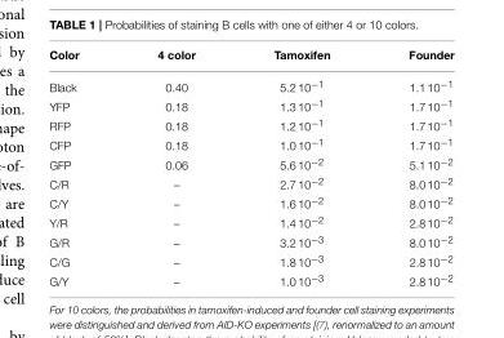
<table><thead><tr><td>Color</td><td>4 color</td><td>Tamoxifen</td><td>Founder</td></tr></thead><tbody><tr><td>Black</td><td>0.40</td><td>5.2 10<sup>−1</sup></td><td>1.1 10<sup>−1</sup></td></tr><tr><td>YFP</td><td>0.18</td><td>1.3 10<sup>−1</sup></td><td>1.7 10<sup>−1</sup></td></tr><tr><td>RFP</td><td>0.18</td><td>1.2 10<sup>−1</sup></td><td>1.7 10<sup>−1</sup></td></tr><tr><td>CFP</td><td>0.18</td><td>1.0 10<sup>−1</sup></td><td>1.7 10<sup>−1</sup></td></tr><tr><td>GFP</td><td>0.06</td><td>5.6 10<sup>−2</sup></td><td>5.1 10<sup>−2</sup></td></tr><tr><td>C/R</td><td>–</td><td>2.7 10<sup>−2</sup></td><td>8.0 10<sup>−2</sup></td></tr><tr><td>C/Y</td><td>–</td><td>1.6 10<sup>−2</sup></td><td>8.0 10<sup>−2</sup></td></tr><tr><td>Y/R</td><td>–</td><td>1.4 10<sup>−2</sup></td><td>2.8 10<sup>−2</sup></td></tr><tr><td>G/R</td><td>–</td><td>3.2 10<sup>−3</sup></td><td>8.0 10<sup>−2</sup></td></tr><tr><td>C/G</td><td>–</td><td>1.8 10<sup>−3</sup></td><td>2.8 10<sup>−2</sup></td></tr><tr><td>G/Y</td><td>–</td><td>1.0 10<sup>−3</sup></td><td>2.8 10<sup>−2</sup></td></tr></tbody></table>